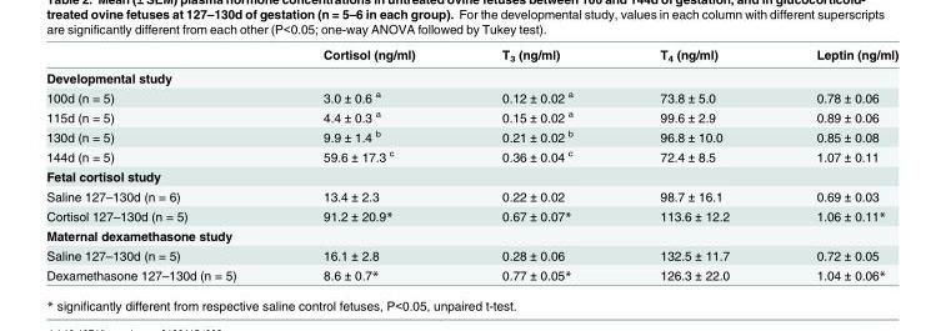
<table><thead><tr><td></td><td>Cortisol (ng/ml)</td><td>T<sub>3</sub> (ng/ml)</td><td>T<sub>4</sub> (ng/ml)</td><td>Leptin (ng/ml)</td></tr></thead><tbody><tr><td colspan="5">Developmental study</td></tr><tr><td>100d (n = 5)</td><td>3.0 ± 0.6 <sup>a</sup></td><td>0.12 ± 0.02 <sup>a</sup></td><td>73.8 ± 5.0</td><td>0.78 ± 0.06</td></tr><tr><td>115d (n = 5)</td><td>4.4 ± 0.3 <sup>a</sup></td><td>0.15 ± 0.02 <sup>a</sup></td><td>99.6 ± 2.9</td><td>0.89 ± 0.06</td></tr><tr><td>130d (n = 5)</td><td>9.9 ± 1.4 <sup>b</sup></td><td>0.21 ± 0.02 <sup>b</sup></td><td>96.8 ± 10.0</td><td>0.85 ± 0.08</td></tr><tr><td>144d (n = 5)</td><td>59.6 ± 17.3 <sup>c</sup></td><td>0.36 ± 0.04 <sup>c</sup></td><td>72.4 ± 8.5</td><td>1.07 ± 0.11</td></tr><tr><td colspan="5">Fetal cortisol study</td></tr><tr><td>Saline 127–130d (n = 6)</td><td>13.4 ± 2.3</td><td>0.22 ± 0.02</td><td>98.7 ± 16.1</td><td>0.69 ± 0.03</td></tr><tr><td>Cortisol 127–130d (n = 5)</td><td>91.2 ± 20.9*</td><td>0.67 ± 0.07*</td><td>113.6 ± 12.2</td><td>1.06 ± 0.11*</td></tr><tr><td colspan="5">Maternal dexamethasone study</td></tr><tr><td>Saline 127–130d (n = 5)</td><td>16.1 ± 2.8</td><td>0.28 ± 0.06</td><td>132.5 ± 11.7</td><td>0.72 ± 0.05</td></tr><tr><td>Dexamethasone 127–130d (n = 5)</td><td>8.6 ± 0.7*</td><td>0.77 ± 0.05*</td><td>126.3 ± 22.0</td><td>1.04 ± 0.06*</td></tr></tbody></table>